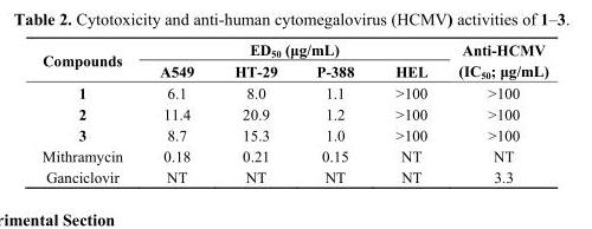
<table><thead><tr><td rowspan="2">Compounds</td><td colspan="4">ED<sub>50</sub> (μg/mL)</td><td rowspan="2">Anti-HCMV (IC<sub>50</sub>; μg/mL)</td></tr><tr><td>A549</td><td>HT-29</td><td>P-388</td><td>HEL</td></tr></thead><tbody><tr><td>1</td><td>6.1</td><td>8.0</td><td>1.1</td><td>&gt;100</td><td>&gt;100</td></tr><tr><td>2</td><td>11.4</td><td>20.9</td><td>1.2</td><td>&gt;100</td><td>&gt;100</td></tr><tr><td>3</td><td>8.7</td><td>15.3</td><td>1.0</td><td>&gt;100</td><td>&gt;100</td></tr><tr><td>Mithramycin</td><td>0.18</td><td>0.21</td><td>0.15</td><td>NT</td><td>NT</td></tr><tr><td>Ganciclovir</td><td>NT</td><td>NT</td><td>NT</td><td>NT</td><td>3.3</td></tr></tbody></table>